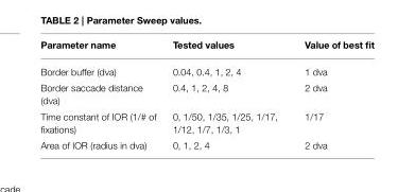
<table><thead><tr><td>Parameter name</td><td>Tested values</td><td>Value of best fit</td></tr></thead><tbody><tr><td>Border buffer (dva)</td><td>0.04, 0.4, 1, 2, 4</td><td>1 dva</td></tr><tr><td>Border saccade distance (dva)</td><td>0.4, 1, 2, 4, 8</td><td>2 dva</td></tr><tr><td>Time constant of IOR (1/# of fixations)</td><td>0, 1/50, 1/35, 1/25, 1/17, 1/12, 1/7, 1/3, 1</td><td>1/17</td></tr><tr><td>Area of IOR (radius in dva)</td><td>0, 1, 2, 4</td><td>2 dva</td></tr></tbody></table>